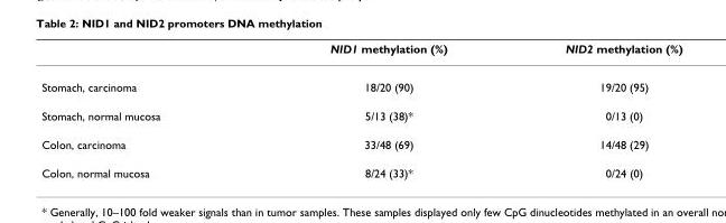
<table><thead><tr><td></td><td>NID1 methylation (%)</td><td>NID2 methylation (%)</td></tr></thead><tbody><tr><td>Stomach, carcinoma</td><td>18/20 (90)</td><td>19/20 (95)</td></tr><tr><td>Stomach, normal mucosa</td><td>5/13 (38)*</td><td>0/13 (0)</td></tr><tr><td>Colon, carcinoma</td><td>33/48 (69)</td><td>14/48 (29)</td></tr><tr><td>Colon, normal mucosa</td><td>8/24 (33)*</td><td>0/24 (0)</td></tr></tbody></table>